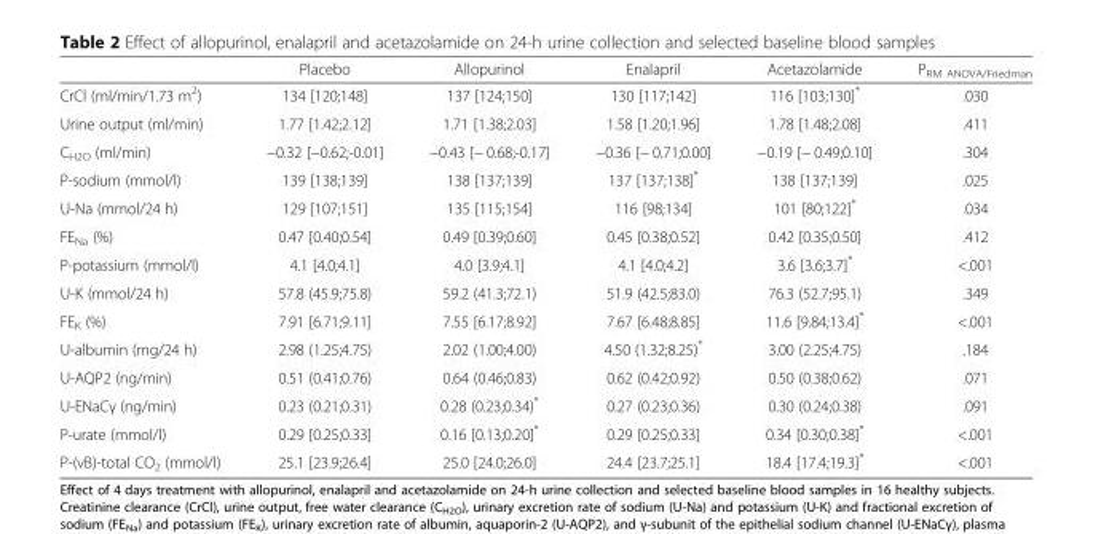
<table><thead><tr><td></td><td>Placebo</td><td>Allopurinol</td><td>Enalapril</td><td>Acetazolamide</td><td>P<sub>RM ANOVA/Friedman</sub></td></tr></thead><tbody><tr><td>CrCl (ml/min/1.73 m<sup>2</sup>)</td><td>134 [120;148]</td><td>137 [124;150]</td><td>130 [117;142]</td><td>116 [103;130]*</td><td>.030</td></tr><tr><td>Urine output (ml/min)</td><td>1.77 [1.42;2.12]</td><td>1.71 [1.38;2.03]</td><td>1.58 [1.20;1.96]</td><td>1.78 [1.48;2.08]</td><td>.411</td></tr><tr><td>C<sub>H2O</sub> (ml/min)</td><td>−0.32 [−0.62;-0.01]</td><td>−0.43 [− 0.68;-0.17]</td><td>−0.36 [− 0.71;0.00]</td><td>−0.19 [− 0.49;0.10]</td><td>.304</td></tr><tr><td>P-sodium (mmol/l)</td><td>139 [138;139]</td><td>138 [137;139]</td><td>137 [137;138]*</td><td>138 [137;139]</td><td>.025</td></tr><tr><td>U-Na (mmol/24 h)</td><td>129 [107;151]</td><td>135 [115;154]</td><td>116 [98;134]</td><td>101 [80;122]*</td><td>.034</td></tr><tr><td>FE<sub>Na</sub> (%)</td><td>0.47 [0.40;0.54]</td><td>0.49 [0.39;0.60]</td><td>0.45 [0.38;0.52]</td><td>0.42 [0.35;0.50]</td><td>.412</td></tr><tr><td>P-potassium (mmol/l)</td><td>4.1 [4.0;4.1]</td><td>4.0 [3.9;4.1]</td><td>4.1 [4.0;4.2]</td><td>3.6 [3.6;3.7]*</td><td>&lt;.001</td></tr><tr><td>U-K (mmol/24 h)</td><td>57.8 (45.9;75.8)</td><td>59.2 (41.3;72.1)</td><td>51.9 (42.5;83.0)</td><td>76.3 (52.7;95.1)</td><td>.349</td></tr><tr><td>FE<sub>K</sub> (%)</td><td>7.91 [6.71;9.11]</td><td>7.55 [6.17;8.92]</td><td>7.67 [6.48;8.85]</td><td>11.6 [9.84;13.4]*</td><td>&lt;.001</td></tr><tr><td>U-albumin (mg/24 h)</td><td>2.98 (1.25;4.75)</td><td>2.02 (1.00;4.00)</td><td>4.50 (1.32;8.25)*</td><td>3.00 (2.25;4.75)</td><td>.184</td></tr><tr><td>U-AQP2 (ng/min)</td><td>0.51 (0.41;0.76)</td><td>0.64 (0.46;0.83)</td><td>0.62 (0.42;0.92)</td><td>0.50 (0.38;0.62)</td><td>.071</td></tr><tr><td>U-ENaCγ (ng/min)</td><td>0.23 (0.21;0.31)</td><td>0.28 (0.23;0.34)*</td><td>0.27 (0.23;0.36)</td><td>0.30 (0.24;0.38)</td><td>.091</td></tr><tr><td>P-urate (mmol/l)</td><td>0.29 [0.25;0.33]</td><td>0.16 [0.13;0.20]*</td><td>0.29 [0.25;0.33]</td><td>0.34 [0.30;0.38]*</td><td>&lt;.001</td></tr><tr><td>P-(vB)-total CO<sub>2</sub> (mmol/l)</td><td>25.1 [23.9;26.4]</td><td>25.0 [24.0;26.0]</td><td>24.4 [23.7;25.1]</td><td>18.4 [17.4;19.3]*</td><td>&lt;.001</td></tr></tbody></table>